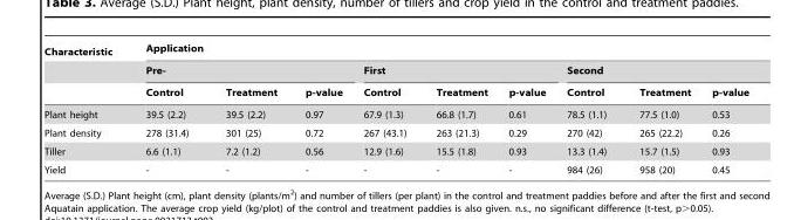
<table><thead><tr><td rowspan="3">Characteristic</td><td colspan="9">Application</td></tr><tr><td colspan="3">Pre-</td><td colspan="3">First</td><td colspan="3">Second</td></tr><tr><td>Control</td><td>Treatment</td><td>p-value</td><td>Control</td><td>Treatment</td><td>p-value</td><td>Control</td><td>Treatment</td><td>p-value</td></tr></thead><tbody><tr><td>Plant height</td><td>39.5 (2.2)</td><td>39.5 (2.2)</td><td>0.97</td><td>67.9 (1.3)</td><td>66.8 (1.7)</td><td>0.61</td><td>78.5 (1.1)</td><td>77.5 (1.0)</td><td>0.53</td></tr><tr><td>Plant density</td><td>278 (31.4)</td><td>301 (25)</td><td>0.72</td><td>267 (43.1)</td><td>263 (21.3)</td><td>0.29</td><td>270 (42)</td><td>265 (22.2)</td><td>0.26</td></tr><tr><td>Tiller</td><td>6.6 (1.1)</td><td>7.2 (1.2)</td><td>0.56</td><td>12.9 (1.6)</td><td>15.5 (1.8)</td><td>0.93</td><td>13.3 (1.4)</td><td>15.7 (1.5)</td><td>0.93</td></tr><tr><td>Yield</td><td>-</td><td>-</td><td>-</td><td>-</td><td>-</td><td>-</td><td>984 (26)</td><td>958 (20)</td><td>0.45</td></tr></tbody></table>